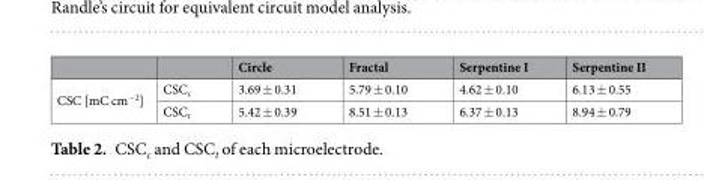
<table><thead><tr><td></td><td></td><td>Circle</td><td>Fractal</td><td>Serpentine I</td><td>Serpentine II</td></tr></thead><tbody><tr><td rowspan="2">CSC [mC cm<sup>−2</sup>]</td><td>CSC<sub>c</sub></td><td>3.69 ± 0.31</td><td>5.79 ± 0.10</td><td>4.62 ± 0.10</td><td>6.13 ± 0.55</td></tr><tr><td>CSC<sub>t</sub></td><td>5.42 ± 0.39</td><td>8.51 ± 0.13</td><td>6.37 ± 0.13</td><td>8.94 ± 0.79</td></tr></tbody></table>